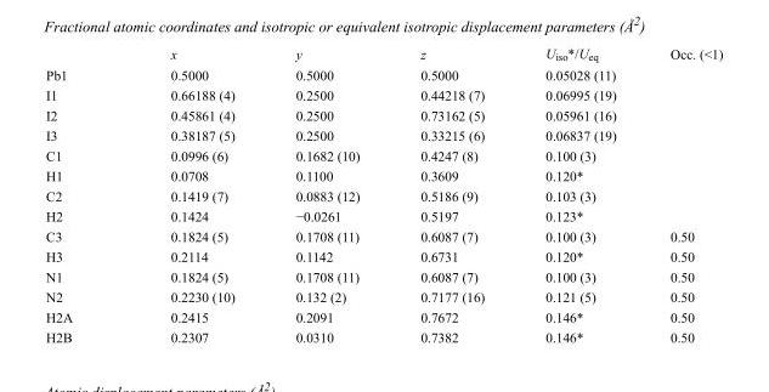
<table><thead><tr><td></td><td>x</td><td>y</td><td>z</td><td>U<sub>iso</sub>*/U<sub>eq</sub></td><td>Occ. (&lt;1)</td></tr></thead><tbody><tr><td>Pb1</td><td>0.5000</td><td>0.5000</td><td>0.5000</td><td>0.05028 (11)</td><td></td></tr><tr><td>I1</td><td>0.66188 (4)</td><td>0.2500</td><td>0.44218 (7)</td><td>0.06995 (19)</td><td></td></tr><tr><td>I2</td><td>0.45861 (4)</td><td>0.2500</td><td>0.73162 (5)</td><td>0.05961 (16)</td><td></td></tr><tr><td>I3</td><td>0.38187 (5)</td><td>0.2500</td><td>0.33215 (6)</td><td>0.06837 (19)</td><td></td></tr><tr><td>C1</td><td>0.0996 (6)</td><td>0.1682 (10)</td><td>0.4247 (8)</td><td>0.100 (3)</td><td></td></tr><tr><td>H1</td><td>0.0708</td><td>0.1100</td><td>0.3609</td><td>0.120*</td><td></td></tr><tr><td>C2</td><td>0.1419 (7)</td><td>0.0883 (12)</td><td>0.5186 (9)</td><td>0.103 (3)</td><td></td></tr><tr><td>H2</td><td>0.1424</td><td>−0.0261</td><td>0.5197</td><td>0.123*</td><td></td></tr><tr><td>C3</td><td>0.1824 (5)</td><td>0.1708 (11)</td><td>0.6087 (7)</td><td>0.100 (3)</td><td>0.50</td></tr><tr><td>H3</td><td>0.2114</td><td>0.1142</td><td>0.6731</td><td>0.120*</td><td>0.50</td></tr><tr><td>N1</td><td>0.1824 (5)</td><td>0.1708 (11)</td><td>0.6087 (7)</td><td>0.100 (3)</td><td>0.50</td></tr><tr><td>N2</td><td>0.2230 (10)</td><td>0.132 (2)</td><td>0.7177 (16)</td><td>0.121 (5)</td><td>0.50</td></tr><tr><td>H2A</td><td>0.2415</td><td>0.2091</td><td>0.7672</td><td>0.146*</td><td>0.50</td></tr><tr><td>H2B</td><td>0.2307</td><td>0.0310</td><td>0.7382</td><td>0.146*</td><td>0.50</td></tr></tbody></table>